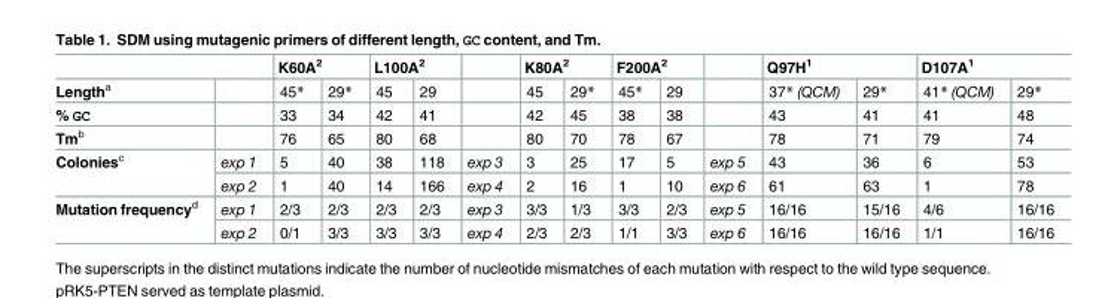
<table><thead><tr><td rowspan="2">Length<sup>a</sup></td><td rowspan="2"></td><td colspan="2">K60A<sup>2</sup></td><td colspan="2">L100A<sup>2</sup></td><td rowspan="2"></td><td colspan="2">K80A<sup>2</sup></td><td colspan="2">F200A<sup>2</sup></td><td rowspan="2"></td><td colspan="2">Q97H<sup>1</sup></td><td colspan="2">D107A<sup>1</sup></td></tr><tr><td>45*</td><td>29*</td><td>45</td><td>29</td><td>45</td><td>29*</td><td>45*</td><td>29</td><td>37* (QCM)</td><td>29*</td><td>41* (QCM)</td><td>29*</td></tr></thead><tbody><tr><td>% GC</td><td></td><td>33</td><td>34</td><td>42</td><td>41</td><td></td><td>42</td><td>45</td><td>38</td><td>38</td><td></td><td>43</td><td>41</td><td>41</td><td>48</td></tr><tr><td>Tm<sup>b</sup></td><td></td><td>76</td><td>65</td><td>80</td><td>68</td><td></td><td>80</td><td>70</td><td>78</td><td>67</td><td></td><td>78</td><td>71</td><td>79</td><td>74</td></tr><tr><td rowspan="2">Colonies<sup>c</sup></td><td>exp 1</td><td>5</td><td>40</td><td>38</td><td>118</td><td>exp 3</td><td>3</td><td>25</td><td>17</td><td>5</td><td>exp 5</td><td>43</td><td>36</td><td>6</td><td>53</td></tr><tr><td>exp 2</td><td>1</td><td>40</td><td>14</td><td>166</td><td>exp 4</td><td>2</td><td>16</td><td>1</td><td>10</td><td>exp 6</td><td>61</td><td>63</td><td>1</td><td>78</td></tr><tr><td rowspan="2">Mutation frequency<sup>d</sup></td><td>exp 1</td><td>2/3</td><td>2/3</td><td>2/3</td><td>2/3</td><td>exp 3</td><td>3/3</td><td>1/3</td><td>3/3</td><td>2/3</td><td>exp 5</td><td>16/16</td><td>15/16</td><td>4/6</td><td>16/16</td></tr><tr><td>exp 2</td><td>0/1</td><td>3/3</td><td>3/3</td><td>3/3</td><td>exp 4</td><td>2/3</td><td>2/3</td><td>1/1</td><td>3/3</td><td>exp 6</td><td>16/16</td><td>16/16</td><td>1/1</td><td>16/16</td></tr></tbody></table>